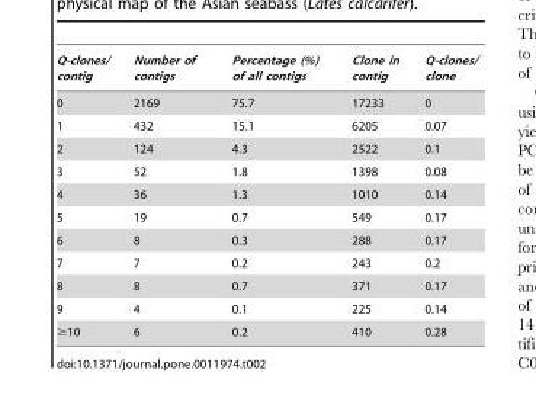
<table><thead><tr><td>Q-clones/ contig</td><td>Number of contigs</td><td>Percentage (%) of all contigs</td><td>Clone in contig</td><td>Q-clones/ clone</td></tr></thead><tbody><tr><td>0</td><td>2169</td><td>75.7</td><td>17233</td><td>0</td></tr><tr><td>1</td><td>432</td><td>15.1</td><td>6205</td><td>0.07</td></tr><tr><td>2</td><td>124</td><td>4.3</td><td>2522</td><td>0.1</td></tr><tr><td>3</td><td>52</td><td>1.8</td><td>1398</td><td>0.08</td></tr><tr><td>4</td><td>36</td><td>1.3</td><td>1010</td><td>0.14</td></tr><tr><td>5</td><td>19</td><td>0.7</td><td>549</td><td>0.17</td></tr><tr><td>6</td><td>8</td><td>0.3</td><td>288</td><td>0.17</td></tr><tr><td>7</td><td>7</td><td>0.2</td><td>243</td><td>0.2</td></tr><tr><td>8</td><td>8</td><td>0.7</td><td>371</td><td>0.17</td></tr><tr><td>9</td><td>4</td><td>0.1</td><td>225</td><td>0.14</td></tr><tr><td>≥10</td><td>6</td><td>0.2</td><td>410</td><td>0.28</td></tr></tbody></table>